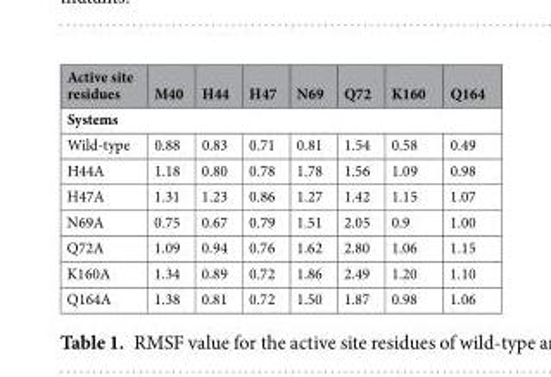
<table><thead><tr><td>Active site residues</td><td>M40</td><td>H44</td><td>H47</td><td>N69</td><td>Q72</td><td>K160</td><td>Q164</td></tr></thead><tbody><tr><td colspan="8">Systems</td></tr><tr><td>Wild-type</td><td>0.88</td><td>0.83</td><td>0.71</td><td>0.81</td><td>1.54</td><td>0.58</td><td>0.49</td></tr><tr><td>H44A</td><td>1.18</td><td>0.80</td><td>0.78</td><td>1.78</td><td>1.56</td><td>1.09</td><td>0.98</td></tr><tr><td>H47A</td><td>1.31</td><td>1.23</td><td>0.86</td><td>1.27</td><td>1.42</td><td>1.15</td><td>1.07</td></tr><tr><td>N69A</td><td>0.75</td><td>0.67</td><td>0.79</td><td>1.51</td><td>2.05</td><td>0.9</td><td>1.00</td></tr><tr><td>Q72A</td><td>1.09</td><td>0.94</td><td>0.76</td><td>1.62</td><td>2.80</td><td>1.06</td><td>1.15</td></tr><tr><td>K160A</td><td>1.34</td><td>0.89</td><td>0.72</td><td>1.86</td><td>2.49</td><td>1.20</td><td>1.10</td></tr><tr><td>Q164A</td><td>1.38</td><td>0.81</td><td>0.72</td><td>1.50</td><td>1.87</td><td>0.98</td><td>1.06</td></tr></tbody></table>